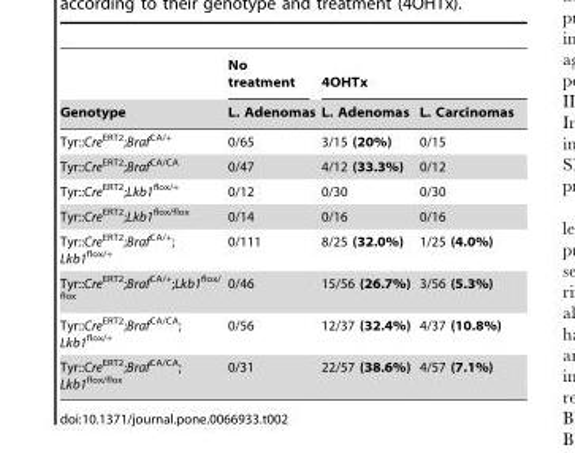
<table><thead><tr><td rowspan="2">Genotype</td><td rowspan="2">No treatment L. Adenomas</td><td colspan="2">4OHTx</td></tr><tr><td>L. Adenomas</td><td>L. Carcinomas</td></tr></thead><tbody><tr><td>Tyr::Cre<sup>ERT2</sup>;Braf<sup>CA/+</sup></td><td>0/65</td><td>3/15 (20%)</td><td>0/15</td></tr><tr><td>Tyr::Cre<sup>ERT2</sup>;Braf<sup>CA/CA</sup></td><td>0/47</td><td>4/12 (33.3%)</td><td>0/12</td></tr><tr><td>Tyr::Cre<sup>ERT2</sup>;Lkb1<sup>flox/+</sup></td><td>0/12</td><td>0/30</td><td>0/30</td></tr><tr><td>Tyr::Cre<sup>ERT2</sup>;Lkb1<sup>flox/flox</sup></td><td>0/14</td><td>0/16</td><td>0/16</td></tr><tr><td>Tyr::Cre<sup>ERT2</sup>;Braf<sup>CA/+</sup>; Lkb1<sup>flox/+</sup></td><td>0/111</td><td>8/25 (32.0%)</td><td>1/25 (4.0%)</td></tr><tr><td>Tyr::Cre<sup>ERT2</sup>;Braf<sup>CA/+</sup>;Lkb1<sup>flox/ flox</sup></td><td>0/46</td><td>15/56 (26.7%)</td><td>3/56 (5.3%)</td></tr><tr><td>Tyr::Cre<sup>ERT2</sup>;Braf<sup>CA/CA</sup>; Lkb1<sup>flox/+</sup></td><td>0/56</td><td>12/37 (32.4%)</td><td>4/37 (10.8%)</td></tr><tr><td>Tyr::Cre<sup>ERT2</sup>;Braf<sup>CA/CA</sup>; Lkb1<sup>flox/flox</sup></td><td>0/31</td><td>22/57 (38.6%)</td><td>4/57 (7.1%)</td></tr></tbody></table>